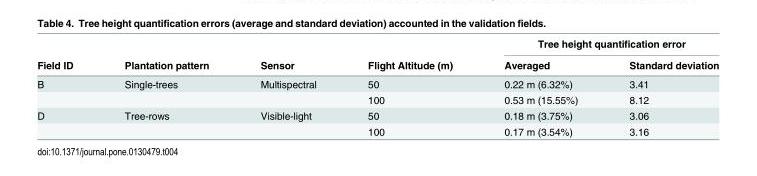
<table><thead><tr><td rowspan="2">Field ID</td><td rowspan="2">Plantation pattern</td><td rowspan="2">Sensor</td><td rowspan="2">Flight Altitude (m)</td><td colspan="2">Tree height quantification error</td></tr><tr><td>Averaged</td><td>Standard deviation</td></tr></thead><tbody><tr><td rowspan="2">B</td><td>Single-trees</td><td>Multispectral</td><td>50</td><td>0.22 m (6.32%)</td><td>3.41</td></tr><tr><td></td><td></td><td>100</td><td>0.53 m (15.55%)</td><td>8.12</td></tr><tr><td rowspan="2">D</td><td>Tree-rows</td><td>Visible-light</td><td>50</td><td>0.18 m (3.75%)</td><td>3.06</td></tr><tr><td></td><td></td><td>100</td><td>0.17 m (3.54%)</td><td>3.16</td></tr></tbody></table>